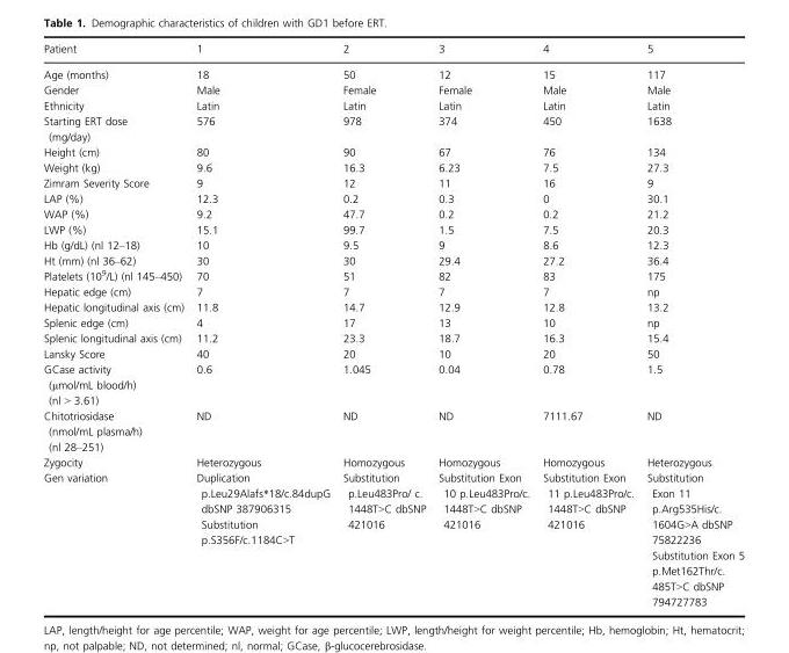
<table><thead><tr><td>Patient</td><td>1</td><td>2</td><td>3</td><td>4</td><td>5</td></tr></thead><tbody><tr><td>Age (months)</td><td>18</td><td>50</td><td>12</td><td>15</td><td>117</td></tr><tr><td>Gender</td><td>Male</td><td>Female</td><td>Female</td><td>Male</td><td>Male</td></tr><tr><td>Ethnicity</td><td>Latin</td><td>Latin</td><td>Latin</td><td>Latin</td><td>Latin</td></tr><tr><td>Starting ERT dose (mg/day)</td><td>576</td><td>978</td><td>374</td><td>450</td><td>1638</td></tr><tr><td>Height (cm)</td><td>80</td><td>90</td><td>67</td><td>76</td><td>134</td></tr><tr><td>Weight (kg)</td><td>9.6</td><td>16.3</td><td>6.23</td><td>7.5</td><td>27.3</td></tr><tr><td>Zimram Severity Score</td><td>9</td><td>12</td><td>11</td><td>16</td><td>9</td></tr><tr><td>LAP (%)</td><td>12.3</td><td>0.2</td><td>0.3</td><td>0</td><td>30.1</td></tr><tr><td>WAP (%)</td><td>9.2</td><td>47.7</td><td>0.2</td><td>0.2</td><td>21.2</td></tr><tr><td>LWP (%)</td><td>15.1</td><td>99.7</td><td>1.5</td><td>7.5</td><td>20.3</td></tr><tr><td>Hb (g/dL) (nl 12–18)</td><td>10</td><td>9.5</td><td>9</td><td>8.6</td><td>12.3</td></tr><tr><td>Ht (mm) (nl 36–62)</td><td>30</td><td>30</td><td>29.4</td><td>27.2</td><td>36.4</td></tr><tr><td>Platelets (10<sup>9</sup>/L) (nl 145–450)</td><td>70</td><td>51</td><td>82</td><td>83</td><td>175</td></tr><tr><td>Hepatic edge (cm)</td><td>7</td><td>7</td><td>7</td><td>7</td><td>np</td></tr><tr><td>Hepatic longitudinal axis (cm)</td><td>11.8</td><td>14.7</td><td>12.9</td><td>12.8</td><td>13.2</td></tr><tr><td>Splenic edge (cm)</td><td>4</td><td>17</td><td>13</td><td>10</td><td>np</td></tr><tr><td>Splenic longitudinal axis (cm)</td><td>11.2</td><td>23.3</td><td>18.7</td><td>16.3</td><td>15.4</td></tr><tr><td>Lansky Score</td><td>40</td><td>20</td><td>10</td><td>20</td><td>50</td></tr><tr><td>GCase activity (μmol/mL blood/h) (nl &gt; 3.61)</td><td>0.6</td><td>1.045</td><td>0.04</td><td>0.78</td><td>1.5</td></tr><tr><td>Chitotriosidase (nmol/mL plasma/h) (nl 28–251)</td><td>ND</td><td>ND</td><td>ND</td><td>7111.67</td><td>ND</td></tr><tr><td>Zygocity</td><td>Heterozygous</td><td>Homozygous</td><td>Homozygous</td><td>Homozygous</td><td>Heterozygous</td></tr><tr><td>Gen variation</td><td>Duplication p.Leu29Alafs*18/c.84dupG dbSNP 387906315 Substitution p.S356F/c.1184C&gt;T</td><td>Substitution p.Leu483Pro/ c. 1448T&gt;C dbSNP 421016</td><td>Substitution Exon 10 p.Leu483Pro/c. 1448T&gt;C dbSNP 421016</td><td>Substitution Exon 11 p.Leu483Pro/c. 1448T&gt;C dbSNP 421016</td><td>Substitution Exon 11 p.Arg535His/c. 1604G&gt;A dbSNP 75822236 Substitution Exon 5 p.Met162Thr/c. 485T&gt;C dbSNP 794727783</td></tr></tbody></table>